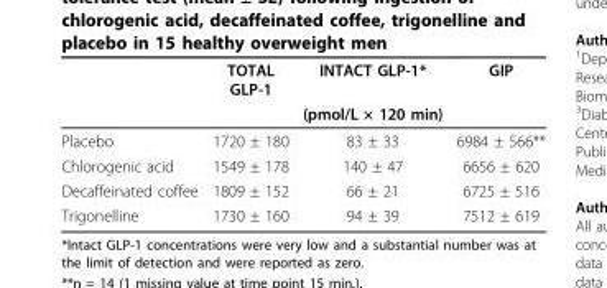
<table><thead><tr><td rowspan="2"></td><td rowspan="2">TOTAL GLP-1</td><td rowspan="2">INTACT GLP-1* (pmol/L × 120 min)</td><td rowspan="2">GIP</td></tr><tr></tr></thead><tbody><tr><td>Placebo</td><td>1720 ± 180</td><td>83 ± 33</td><td>6984 ± 566**</td></tr><tr><td>Chlorogenic acid</td><td>1549 ± 178</td><td>140 ± 47</td><td>6656 ± 620</td></tr><tr><td>Decaffeinated coffee</td><td>1809 ± 152</td><td>66 ± 21</td><td>6725 ± 516</td></tr><tr><td>Trigonelline</td><td>1730 ± 160</td><td>94 ± 39</td><td>7512 ± 619</td></tr></tbody></table>